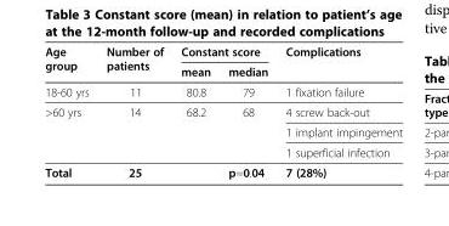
<table><thead><tr><td rowspan="2">Age group</td><td rowspan="2">Number of patients</td><td colspan="2">Constant score</td><td rowspan="2">Complications</td></tr><tr><td>mean</td><td>median</td></tr></thead><tbody><tr><td>18-60 yrs</td><td>11</td><td>80.8</td><td>79</td><td>1 fixation failure</td></tr><tr><td rowspan="3">&gt;60 yrs</td><td rowspan="3">14</td><td rowspan="3">68.2</td><td rowspan="3">68</td><td>4 screw back-out</td></tr><tr><td>1 implant impingement</td></tr><tr><td>1 superficial infection</td></tr><tr><td>Total</td><td>25</td><td></td><td>p=0.04</td><td>7 (28%)</td></tr></tbody></table>